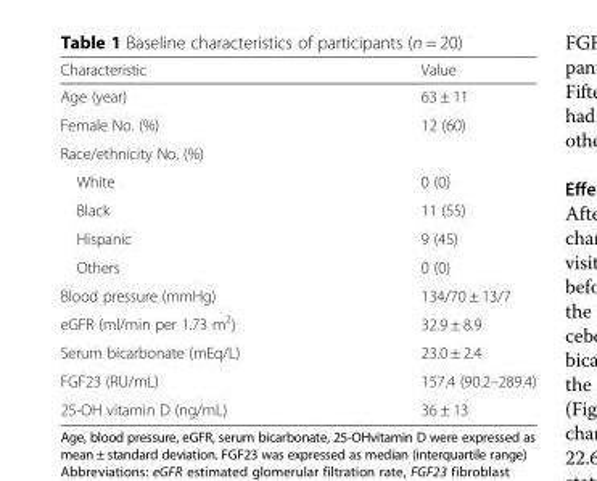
<table><thead><tr><td>Characteristic</td><td>Value</td></tr></thead><tbody><tr><td>Age (year)</td><td>63 ± 11</td></tr><tr><td>Female No. (%)</td><td>12 (60)</td></tr><tr><td colspan="2">Race/ethnicity No. (%)</td></tr><tr><td>White</td><td>0 (0)</td></tr><tr><td>Black</td><td>11 (55)</td></tr><tr><td>Hispanic</td><td>9 (45)</td></tr><tr><td>Others</td><td>0 (0)</td></tr><tr><td>Blood pressure (mmHg)</td><td>134/70 ± 13/7</td></tr><tr><td>eGFR (ml/min per 1.73 m<sup>2</sup>)</td><td>32.9 ± 8.9</td></tr><tr><td>Serum bicarbonate (mEq/L)</td><td>23.0 ± 2.4</td></tr><tr><td>FGF23 (RU/mL)</td><td>157.4 (90.2–289.4)</td></tr><tr><td>25-OH vitamin D (ng/mL)</td><td>36 ± 13</td></tr></tbody></table>